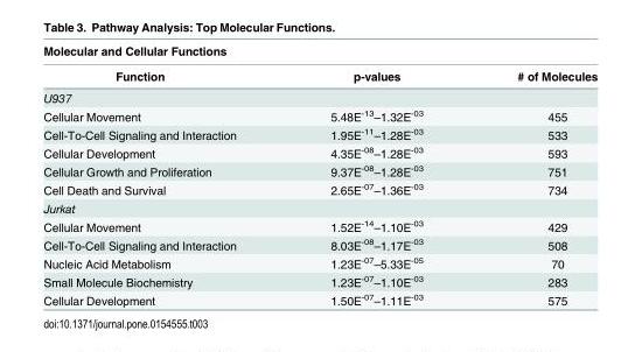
<table><thead><tr><td colspan="3">Molecular and Cellular Functions</td></tr><tr><td>Function</td><td>p-values</td><td># of Molecules</td></tr></thead><tbody><tr><td colspan="3">U937</td></tr><tr><td>Cellular Movement</td><td>5.48E<sup>-13</sup>–1.32E<sup>-03</sup></td><td>455</td></tr><tr><td>Cell-To-Cell Signaling and Interaction</td><td>1.95E<sup>-11</sup>–1.28E<sup>-03</sup></td><td>533</td></tr><tr><td>Cellular Development</td><td>4.35E<sup>-08</sup>–1.28E<sup>-03</sup></td><td>593</td></tr><tr><td>Cellular Growth and Proliferation</td><td>9.37E<sup>-08</sup>–1.28E<sup>-03</sup></td><td>751</td></tr><tr><td>Cell Death and Survival</td><td>2.65E<sup>-07</sup>–1.36E<sup>-03</sup></td><td>734</td></tr><tr><td colspan="3">Jurkat</td></tr><tr><td>Cellular Movement</td><td>1.52E<sup>-14</sup>–1.10E<sup>-03</sup></td><td>429</td></tr><tr><td>Cell-To-Cell Signaling and Interaction</td><td>8.03E<sup>-08</sup>–1.17E<sup>-03</sup></td><td>508</td></tr><tr><td>Nucleic Acid Metabolism</td><td>1.23E<sup>-07</sup>–5.33E<sup>-05</sup></td><td>70</td></tr><tr><td>Small Molecule Biochemistry</td><td>1.23E<sup>-07</sup>–1.10E<sup>-03</sup></td><td>283</td></tr><tr><td>Cellular Development</td><td>1.50E<sup>-07</sup>–1.11E<sup>-03</sup></td><td>575</td></tr></tbody></table>